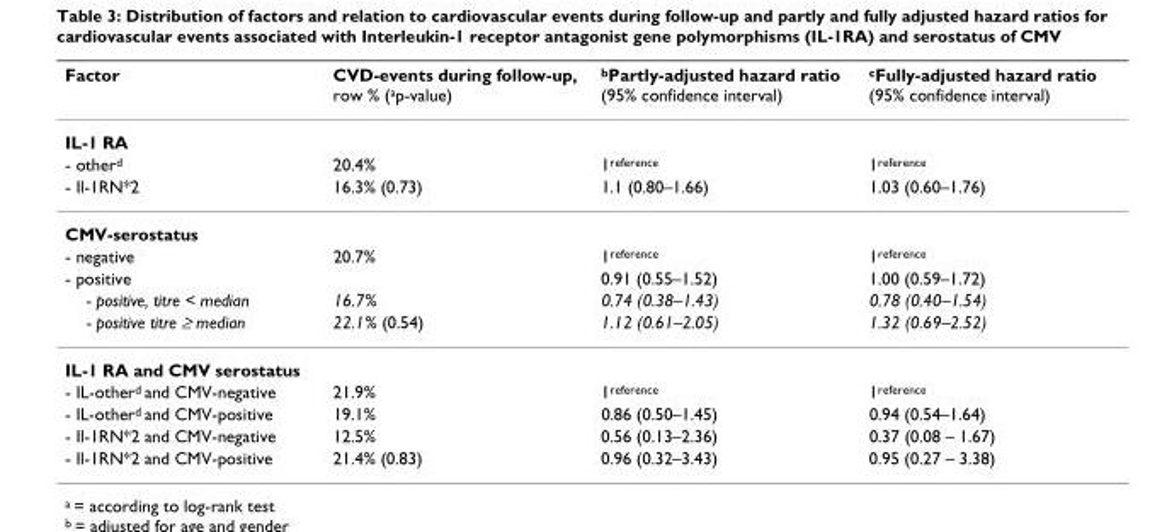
<table><thead><tr><td>Factor</td><td>CVD-events during follow-up, row % (<sup>a</sup>p-value)</td><td><sup>b</sup>Partly-adjusted hazard ratio (95% confidence interval)</td><td><sup>c</sup>Fully-adjusted hazard ratio (95% confidence interval)</td></tr></thead><tbody><tr><td colspan="4">IL-1 RA</td></tr><tr><td>- other<sup>d</sup></td><td>20.4%</td><td>1<sup>reference</sup></td><td>1<sup>reference</sup></td></tr><tr><td>- Il-1RN*2</td><td>16.3% (0.73)</td><td>1.1 (0.80–1.66)</td><td>1.03 (0.60–1.76)</td></tr><tr><td colspan="4">CMV-serostatus</td></tr><tr><td>- negative</td><td>20.7%</td><td>1<sup>reference</sup></td><td>1<sup>reference</sup></td></tr><tr><td>- positive</td><td></td><td>0.91 (0.55–1.52)</td><td>1.00 (0.59–1.72)</td></tr><tr><td>- positive, titre &lt; median</td><td>16.7%</td><td>0.74 (0.38–1.43)</td><td>0.78 (0.40–1.54)</td></tr><tr><td>- positive titre ≥ median</td><td>22.1% (0.54)</td><td>1.12 (0.61–2.05)</td><td>1.32 (0.69–2.52)</td></tr><tr><td colspan="4">IL-1 RA and CMV serostatus</td></tr><tr><td>- IL-other<sup>d</sup> and CMV-negative</td><td>21.9%</td><td>1<sup>reference</sup></td><td>1<sup>reference</sup></td></tr><tr><td>- IL-other<sup>d</sup> and CMV-positive</td><td>19.1%</td><td>0.86 (0.50–1.45)</td><td>0.94 (0.54–1.64)</td></tr><tr><td>- Il-1RN*2 and CMV-negative</td><td>12.5%</td><td>0.56 (0.13–2.36)</td><td>0.37 (0.08 – 1.67)</td></tr><tr><td>- Il-1RN*2 and CMV-positive</td><td>21.4% (0.83)</td><td>0.96 (0.32–3.43)</td><td>0.95 (0.27 – 3.38)</td></tr></tbody></table>